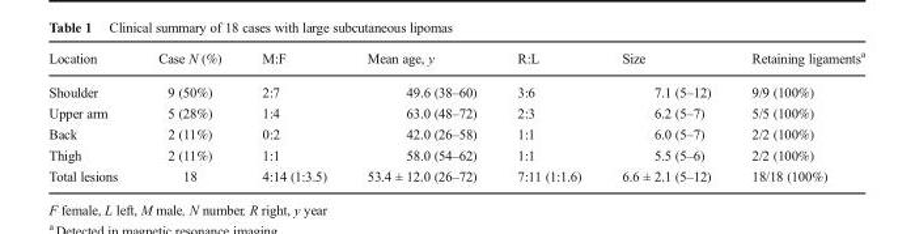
<table><thead><tr><td>Location</td><td>Case N (%)</td><td>M:F</td><td>Mean age, y</td><td>R:L</td><td>Size</td><td>Retaining ligaments<sup>a</sup></td></tr></thead><tbody><tr><td>Shoulder</td><td>9 (50%)</td><td>2:7</td><td>49.6 (38–60)</td><td>3:6</td><td>7.1 (5–12)</td><td>9/9 (100%)</td></tr><tr><td>Upper arm</td><td>5 (28%)</td><td>1:4</td><td>63.0 (48–72)</td><td>2:3</td><td>6.2 (5–7)</td><td>5/5 (100%)</td></tr><tr><td>Back</td><td>2 (11%)</td><td>0:2</td><td>42.0 (26–58)</td><td>1:1</td><td>6.0 (5–7)</td><td>2/2 (100%)</td></tr><tr><td>Thigh</td><td>2 (11%)</td><td>1:1</td><td>58.0 (54–62)</td><td>1:1</td><td>5.5 (5–6)</td><td>2/2 (100%)</td></tr><tr><td>Total lesions</td><td>18</td><td>4:14 (1:3.5)</td><td>53.4 ± 12.0 (26–72)</td><td>7:11 (1:1.6)</td><td>6.6 ± 2.1 (5–12)</td><td>18/18 (100%)</td></tr></tbody></table>